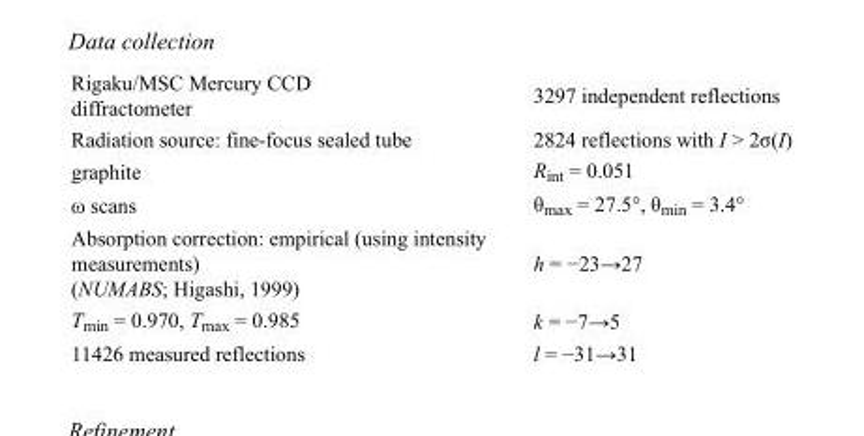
<table><tbody><tr><td>Rigaku/MSC Mercury CCD diffractometer</td><td>3297 independent reflections</td></tr><tr><td>Radiation source: fine-focus sealed tube</td><td>2824 reflections with I &gt; 2σ(I)</td></tr><tr><td>graphite</td><td>R<sub>int</sub> = 0.051</td></tr><tr><td>ω scans</td><td>θ<sub>max</sub> = 27.5°, θ<sub>min</sub> = 3.4°</td></tr><tr><td>Absorption correction: empirical (using intensity measurements) (NUMABS; Higashi, 1999)</td><td>h = −23→27</td></tr><tr><td>T<sub>min</sub> = 0.970, T<sub>max</sub> = 0.985</td><td>k = −7→5</td></tr><tr><td>11426 measured reflections</td><td>l = −31→31</td></tr></tbody></table>